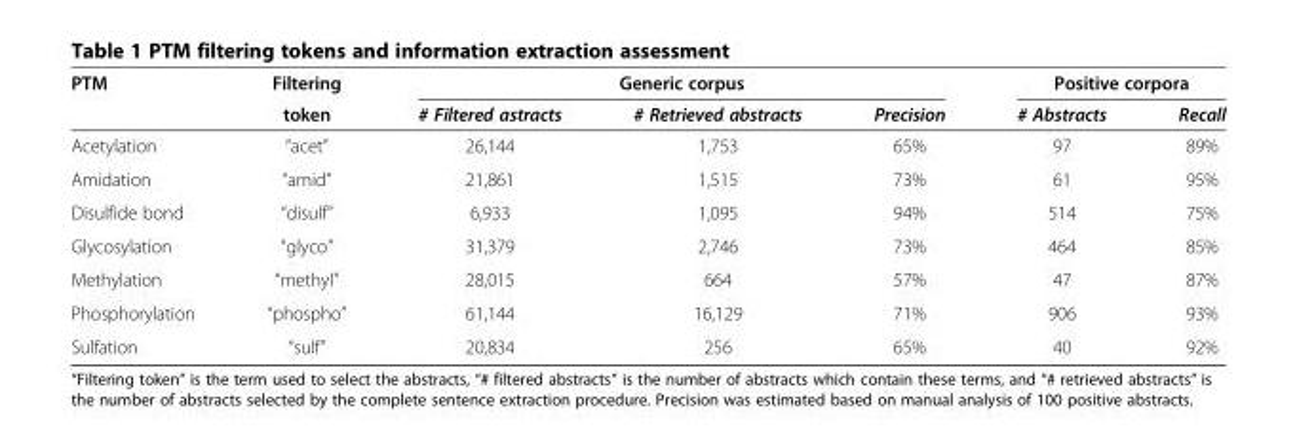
<table><thead><tr><td rowspan="2">PTM</td><td rowspan="2">Filtering token</td><td colspan="3">Generic corpus</td><td colspan="2">Positive corpora</td></tr><tr><td># Filtered astracts</td><td># Retrieved abstracts</td><td>Precision</td><td># Abstracts</td><td>Recall</td></tr></thead><tbody><tr><td>Acetylation</td><td>“acet”</td><td>26,144</td><td>1,753</td><td>65%</td><td>97</td><td>89%</td></tr><tr><td>Amidation</td><td>“amid”</td><td>21,861</td><td>1,515</td><td>73%</td><td>61</td><td>95%</td></tr><tr><td>Disulfide bond</td><td>“disulf”</td><td>6,933</td><td>1,095</td><td>94%</td><td>514</td><td>75%</td></tr><tr><td>Glycosylation</td><td>“glyco”</td><td>31,379</td><td>2,746</td><td>73%</td><td>464</td><td>85%</td></tr><tr><td>Methylation</td><td>“methyl”</td><td>28,015</td><td>664</td><td>57%</td><td>47</td><td>87%</td></tr><tr><td>Phosphorylation</td><td>“phospho”</td><td>61,144</td><td>16,129</td><td>71%</td><td>906</td><td>93%</td></tr><tr><td>Sulfation</td><td>“sulf”</td><td>20,834</td><td>256</td><td>65%</td><td>40</td><td>92%</td></tr></tbody></table>